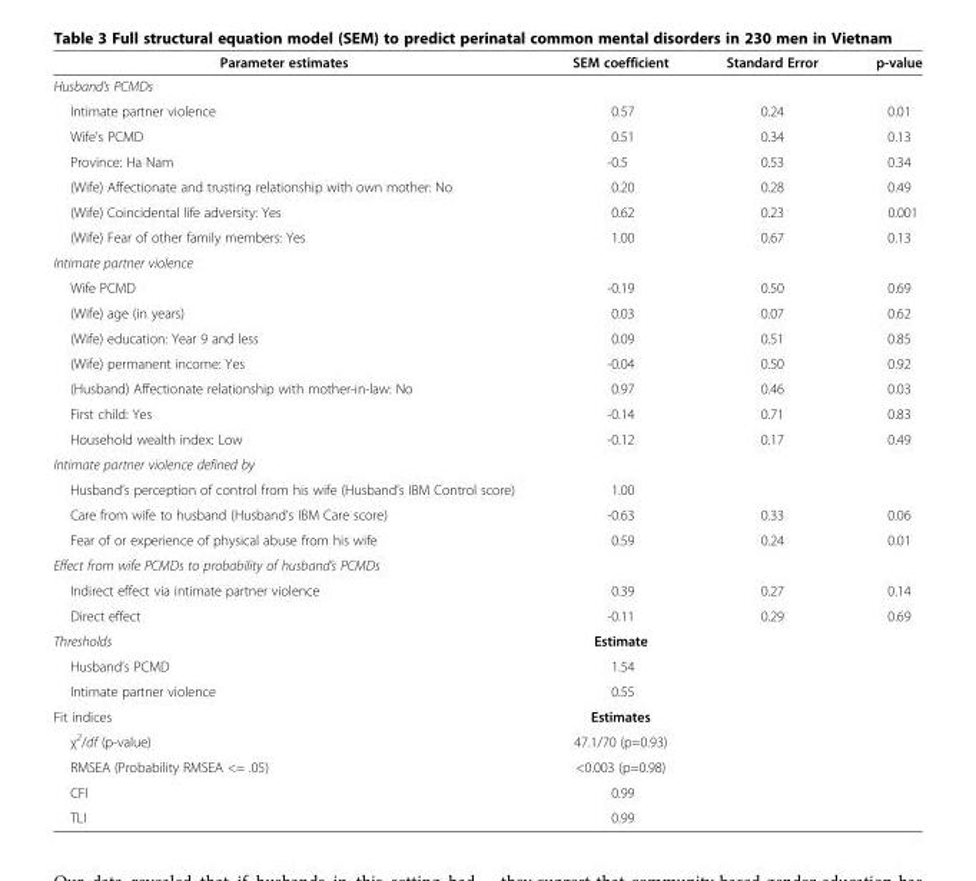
<table><thead><tr><td>Parameter estimates</td><td>SEM coefficient</td><td>Standard Error</td><td>p-value</td></tr></thead><tbody><tr><td colspan="4">Husband’s PCMDs</td></tr><tr><td>Intimate partner violence</td><td>0.57</td><td>0.24</td><td>0.01</td></tr><tr><td>Wife’s PCMD</td><td>0.51</td><td>0.34</td><td>0.13</td></tr><tr><td>Province: Ha Nam</td><td>-0.5</td><td>0.53</td><td>0.34</td></tr><tr><td>(Wife) Affectionate and trusting relationship with own mother: No</td><td>0.20</td><td>0.28</td><td>0.49</td></tr><tr><td>(Wife) Coincidental life adversity: Yes</td><td>0.62</td><td>0.23</td><td>0.001</td></tr><tr><td>(Wife) Fear of other family members: Yes</td><td>1.00</td><td>0.67</td><td>0.13</td></tr><tr><td colspan="4">Intimate partner violence</td></tr><tr><td>Wife PCMD</td><td>-0.19</td><td>0.50</td><td>0.69</td></tr><tr><td>(Wife) age (in years)</td><td>0.03</td><td>0.07</td><td>0.62</td></tr><tr><td>(Wife) education: Year 9 and less</td><td>0.09</td><td>0.51</td><td>0.85</td></tr><tr><td>(Wife) permanent income: Yes</td><td>-0.04</td><td>0.50</td><td>0.92</td></tr><tr><td>(Husband) Affectionate relationship with mother-in-law: No</td><td>0.97</td><td>0.46</td><td>0.03</td></tr><tr><td>First child: Yes</td><td>-0.14</td><td>0.71</td><td>0.83</td></tr><tr><td>Household wealth index: Low</td><td>-0.12</td><td>0.17</td><td>0.49</td></tr><tr><td colspan="4">Intimate partner violence defined by</td></tr><tr><td>Husband’s perception of control from his wife (Husband’s IBM Control score)</td><td>1.00</td><td></td><td></td></tr><tr><td>Care from wife to husband (Husband’s IBM Care score)</td><td>-0.63</td><td>0.33</td><td>0.06</td></tr><tr><td>Fear of or experience of physical abuse from his wife</td><td>0.59</td><td>0.24</td><td>0.01</td></tr><tr><td colspan="4">Effect from wife PCMDs to probability of husband’s PCMDs</td></tr><tr><td>Indirect effect via intimate partner violence</td><td>0.39</td><td>0.27</td><td>0.14</td></tr><tr><td>Direct effect</td><td>-0.11</td><td>0.29</td><td>0.69</td></tr><tr><td>Thresholds</td><td>Estimate</td><td></td><td></td></tr><tr><td>Husband’s PCMD</td><td>1.54</td><td></td><td></td></tr><tr><td>Intimate partner violence</td><td>0.55</td><td></td><td></td></tr><tr><td>Fit indices</td><td>Estimates</td><td></td><td></td></tr><tr><td>χ<sup>2</sup>/df (p-value)</td><td>47.1/70 (p=0.93)</td><td></td><td></td></tr><tr><td>RMSEA (Probability RMSEA &lt;= .05)</td><td>&lt;0.003 (p=0.98)</td><td></td><td></td></tr><tr><td>CFI</td><td>0.99</td><td></td><td></td></tr><tr><td>TLI</td><td>0.99</td><td></td><td></td></tr></tbody></table>